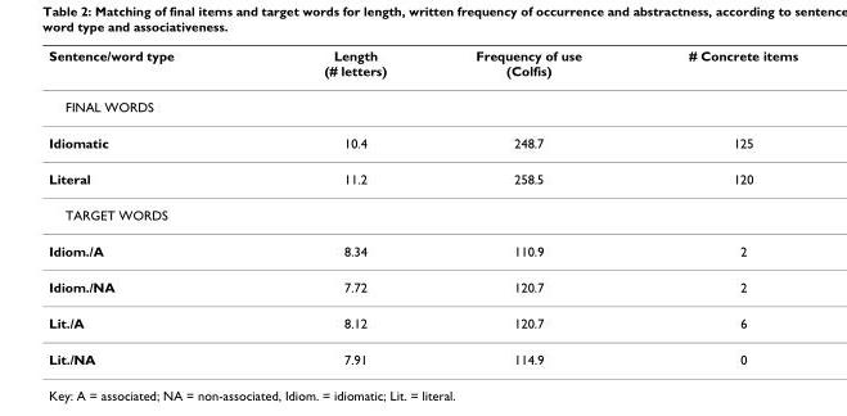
<table><thead><tr><td>Sentence/word type</td><td>Length (# letters)</td><td>Frequency of use (Colfis)</td><td># Concrete items</td></tr></thead><tbody><tr><td colspan="4">FINAL WORDS</td></tr><tr><td>Idiomatic</td><td>10.4</td><td>248.7</td><td>125</td></tr><tr><td>Literal</td><td>11.2</td><td>258.5</td><td>120</td></tr><tr><td colspan="4">TARGET WORDS</td></tr><tr><td>Idiom./A</td><td>8.34</td><td>110.9</td><td>2</td></tr><tr><td>Idiom./NA</td><td>7.72</td><td>120.7</td><td>2</td></tr><tr><td>Lit./A</td><td>8.12</td><td>120.7</td><td>6</td></tr><tr><td>Lit./NA</td><td>7.91</td><td>114.9</td><td>0</td></tr></tbody></table>